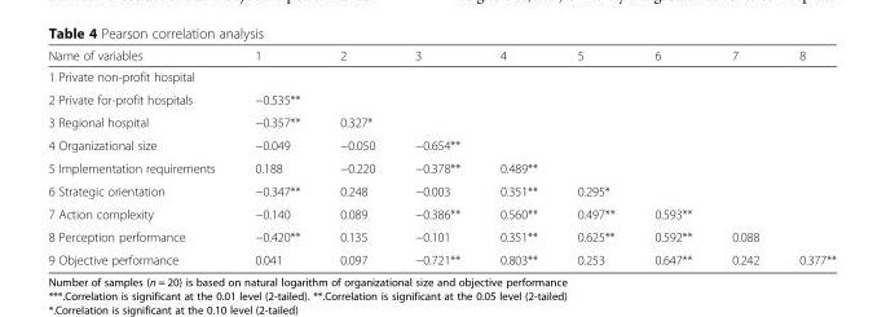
<table><thead><tr><td>Name of variables</td><td>1</td><td>2</td><td>3</td><td>4</td><td>5</td><td>6</td><td>7</td><td>8</td></tr></thead><tbody><tr><td colspan="9">1 Private non-profit hospital</td></tr><tr><td>2 Private for-profit hospitals</td><td>−0.535**</td><td></td><td></td><td></td><td></td><td></td><td></td><td></td></tr><tr><td>3 Regional hospital</td><td>−0.357**</td><td>0.327*</td><td></td><td></td><td></td><td></td><td></td><td></td></tr><tr><td>4 Organizational size</td><td>−0.049</td><td>−0.050</td><td>−0.654**</td><td></td><td></td><td></td><td></td><td></td></tr><tr><td>5 Implementation requirements</td><td>0.188</td><td>−0.220</td><td>−0.378**</td><td>0.489**</td><td></td><td></td><td></td><td></td></tr><tr><td>6 Strategic orientation</td><td>−0.347**</td><td>0.248</td><td>−0.003</td><td>0.351**</td><td>0.295*</td><td></td><td></td><td></td></tr><tr><td>7 Action complexity</td><td>−0.140</td><td>0.089</td><td>−0.386**</td><td>0.560**</td><td>0.497**</td><td>0.593**</td><td></td><td></td></tr><tr><td>8 Perception performance</td><td>−0.420**</td><td>0.135</td><td>−0.101</td><td>0.351**</td><td>0.625**</td><td>0.592**</td><td>0.088</td><td></td></tr><tr><td>9 Objective performance</td><td>0.041</td><td>0.097</td><td>−0.721**</td><td>0.803**</td><td>0.253</td><td>0.647**</td><td>0.242</td><td>0.377**</td></tr></tbody></table>